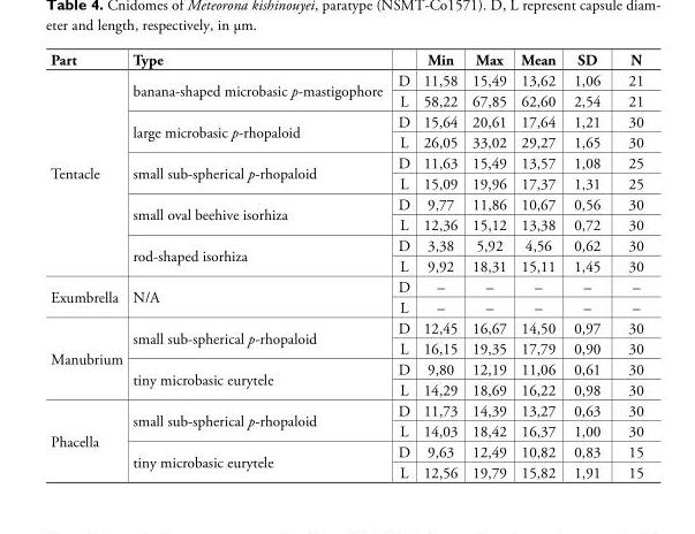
<table><thead><tr><td>Part</td><td>Type</td><td></td><td>Min</td><td>Max</td><td>Mean</td><td>SD</td><td>N</td></tr></thead><tbody><tr><td rowspan="10">Tentacle</td><td rowspan="2">banana-shaped microbasic p-mastigophore</td><td>D</td><td>11,58</td><td>15,49</td><td>13,62</td><td>1,06</td><td>21</td></tr><tr><td>L</td><td>58,22</td><td>67,85</td><td>62,60</td><td>2,54</td><td>21</td></tr><tr><td rowspan="2">large microbasic p-rhopaloid</td><td>D</td><td>15,64</td><td>20,61</td><td>17,64</td><td>1,21</td><td>30</td></tr><tr><td>L</td><td>26,05</td><td>33,02</td><td>29,27</td><td>1,65</td><td>30</td></tr><tr><td rowspan="2">small sub-spherical p-rhopaloid</td><td>D</td><td>11,63</td><td>15,49</td><td>13,57</td><td>1,08</td><td>25</td></tr><tr><td>L</td><td>15,09</td><td>19,96</td><td>17,37</td><td>1,31</td><td>25</td></tr><tr><td rowspan="2">small oval beehive isorhiza</td><td>D</td><td>9,77</td><td>11,86</td><td>10,67</td><td>0,56</td><td>30</td></tr><tr><td>L</td><td>12,36</td><td>15,12</td><td>13,38</td><td>0,72</td><td>30</td></tr><tr><td rowspan="2">rod-shaped isorhiza</td><td>D</td><td>3,38</td><td>5,92</td><td>4,56</td><td>0,62</td><td>30</td></tr><tr><td>L</td><td>9,92</td><td>18,31</td><td>15,11</td><td>1,45</td><td>30</td></tr><tr><td rowspan="2">Exumbrella</td><td rowspan="2">N/A</td><td>D</td><td>–</td><td>–</td><td>–</td><td>–</td><td>–</td></tr><tr><td>L</td><td>–</td><td>–</td><td>–</td><td>–</td><td>–</td></tr><tr><td rowspan="4">Manubrium</td><td rowspan="2">small sub-spherical p-rhopaloid</td><td>D</td><td>12,45</td><td>16,67</td><td>14,50</td><td>0,97</td><td>30</td></tr><tr><td>L</td><td>16,15</td><td>19,35</td><td>17,79</td><td>0,90</td><td>30</td></tr><tr><td rowspan="2">tiny microbasic eurytele</td><td>D</td><td>9,80</td><td>12,19</td><td>11,06</td><td>0,61</td><td>30</td></tr><tr><td>L</td><td>14,29</td><td>18,69</td><td>16,22</td><td>0,98</td><td>30</td></tr><tr><td rowspan="4">Phacella</td><td rowspan="2">small sub-spherical p-rhopaloid</td><td>D</td><td>11,73</td><td>14,39</td><td>13,27</td><td>0,63</td><td>30</td></tr><tr><td>L</td><td>14,03</td><td>18,42</td><td>16,37</td><td>1,00</td><td>30</td></tr><tr><td rowspan="2">tiny microbasic eurytele</td><td>D</td><td>9,63</td><td>12,49</td><td>10,82</td><td>0,83</td><td>15</td></tr><tr><td>L</td><td>12,56</td><td>19,79</td><td>15,82</td><td>1,91</td><td>15</td></tr></tbody></table>